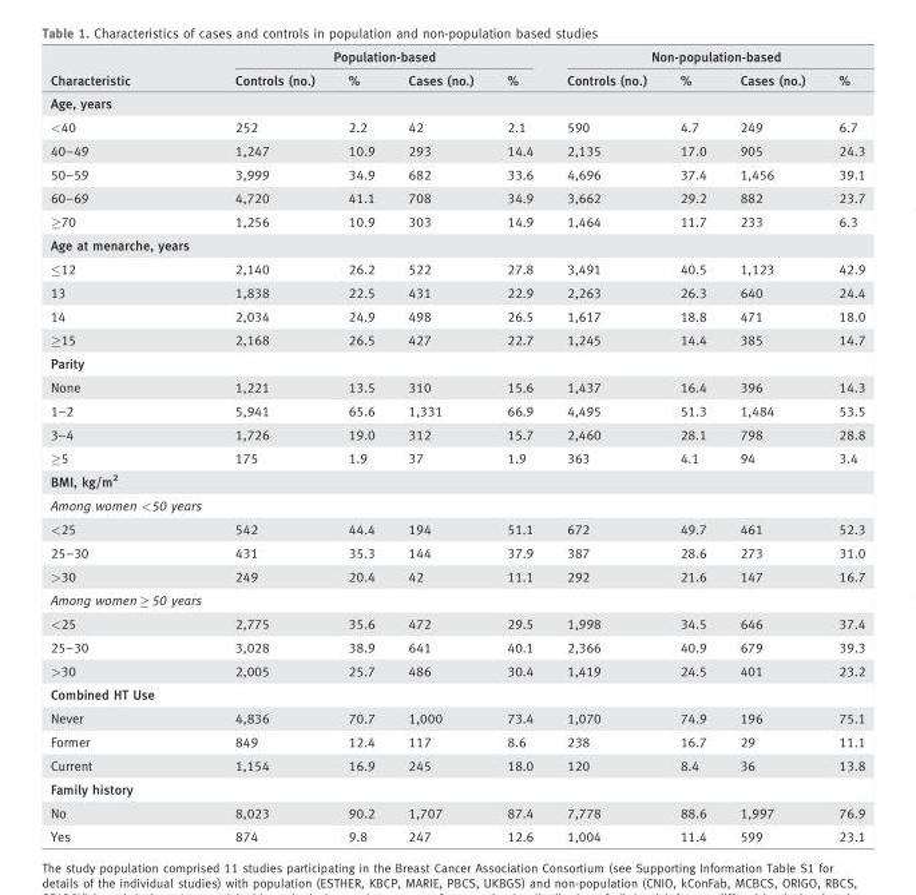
<table><thead><tr><td rowspan="2">Characteristic</td><td colspan="4">Population-based</td><td colspan="4">Non-population-based</td></tr><tr><td>Controls (no.)</td><td>%</td><td>Cases (no.)</td><td>%</td><td>Controls (no.)</td><td>%</td><td>Cases (no.)</td><td>%</td></tr></thead><tbody><tr><td colspan="9">Age, years</td></tr><tr><td>&lt;40</td><td>252</td><td>2.2</td><td>42</td><td>2.1</td><td>590</td><td>4.7</td><td>249</td><td>6.7</td></tr><tr><td>40–49</td><td>1,247</td><td>10.9</td><td>293</td><td>14.4</td><td>2,135</td><td>17.0</td><td>905</td><td>24.3</td></tr><tr><td>50–59</td><td>3,999</td><td>34.9</td><td>682</td><td>33.6</td><td>4,696</td><td>37.4</td><td>1,456</td><td>39.1</td></tr><tr><td>60–69</td><td>4,720</td><td>41.1</td><td>708</td><td>34.9</td><td>3,662</td><td>29.2</td><td>882</td><td>23.7</td></tr><tr><td>≥70</td><td>1,256</td><td>10.9</td><td>303</td><td>14.9</td><td>1,464</td><td>11.7</td><td>233</td><td>6.3</td></tr><tr><td colspan="9">Age at menarche, years</td></tr><tr><td>≤12</td><td>2,140</td><td>26.2</td><td>522</td><td>27.8</td><td>3,491</td><td>40.5</td><td>1,123</td><td>42.9</td></tr><tr><td>13</td><td>1,838</td><td>22.5</td><td>431</td><td>22.9</td><td>2,263</td><td>26.3</td><td>640</td><td>24.4</td></tr><tr><td>14</td><td>2,034</td><td>24.9</td><td>498</td><td>26.5</td><td>1,617</td><td>18.8</td><td>471</td><td>18.0</td></tr><tr><td>≥15</td><td>2,168</td><td>26.5</td><td>427</td><td>22.7</td><td>1,245</td><td>14.4</td><td>385</td><td>14.7</td></tr><tr><td colspan="9">Parity</td></tr><tr><td>None</td><td>1,221</td><td>13.5</td><td>310</td><td>15.6</td><td>1,437</td><td>16.4</td><td>396</td><td>14.3</td></tr><tr><td>1–2</td><td>5,941</td><td>65.6</td><td>1,331</td><td>66.9</td><td>4,495</td><td>51.3</td><td>1,484</td><td>53.5</td></tr><tr><td>3–4</td><td>1,726</td><td>19.0</td><td>312</td><td>15.7</td><td>2,460</td><td>28.1</td><td>798</td><td>28.8</td></tr><tr><td>≥5</td><td>175</td><td>1.9</td><td>37</td><td>1.9</td><td>363</td><td>4.1</td><td>94</td><td>3.4</td></tr><tr><td colspan="9">BMI, kg/m<sup>2</sup></td></tr><tr><td colspan="9">Among women &lt;50 years</td></tr><tr><td>&lt;25</td><td>542</td><td>44.4</td><td>194</td><td>51.1</td><td>672</td><td>49.7</td><td>461</td><td>52.3</td></tr><tr><td>25–30</td><td>431</td><td>35.3</td><td>144</td><td>37.9</td><td>387</td><td>28.6</td><td>273</td><td>31.0</td></tr><tr><td>&gt;30</td><td>249</td><td>20.4</td><td>42</td><td>11.1</td><td>292</td><td>21.6</td><td>147</td><td>16.7</td></tr><tr><td colspan="9">Among women ≥ 50 years</td></tr><tr><td>&lt;25</td><td>2,775</td><td>35.6</td><td>472</td><td>29.5</td><td>1,998</td><td>34.5</td><td>646</td><td>37.4</td></tr><tr><td>25–30</td><td>3,028</td><td>38.9</td><td>641</td><td>40.1</td><td>2,366</td><td>40.9</td><td>679</td><td>39.3</td></tr><tr><td>&gt;30</td><td>2,005</td><td>25.7</td><td>486</td><td>30.4</td><td>1,419</td><td>24.5</td><td>401</td><td>23.2</td></tr><tr><td colspan="9">Combined HT Use</td></tr><tr><td>Never</td><td>4,836</td><td>70.7</td><td>1,000</td><td>73.4</td><td>1,070</td><td>74.9</td><td>196</td><td>75.1</td></tr><tr><td>Former</td><td>849</td><td>12.4</td><td>117</td><td>8.6</td><td>238</td><td>16.7</td><td>29</td><td>11.1</td></tr><tr><td>Current</td><td>1,154</td><td>16.9</td><td>245</td><td>18.0</td><td>120</td><td>8.4</td><td>36</td><td>13.8</td></tr><tr><td colspan="9">Family history</td></tr><tr><td>No</td><td>8,023</td><td>90.2</td><td>1,707</td><td>87.4</td><td>7,778</td><td>88.6</td><td>1,997</td><td>76.9</td></tr><tr><td>Yes</td><td>874</td><td>9.8</td><td>247</td><td>12.6</td><td>1,004</td><td>11.4</td><td>599</td><td>23.1</td></tr></tbody></table>